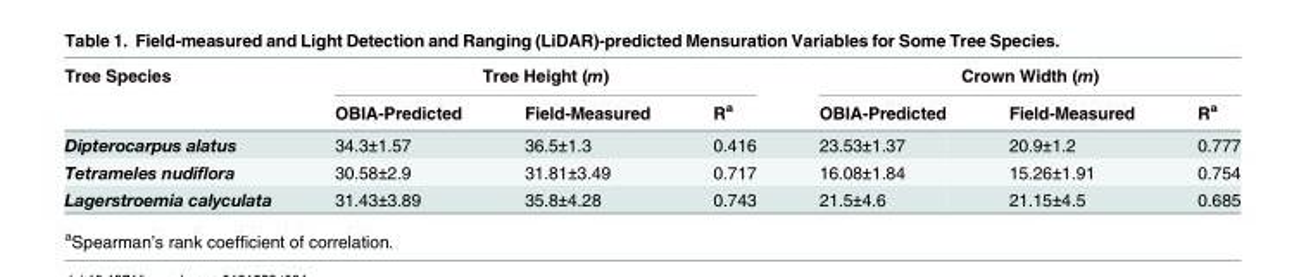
<table><thead><tr><td rowspan="2">Tree Species</td><td colspan="3">Tree Height (m)</td><td colspan="3">Crown Width (m)</td></tr><tr><td>OBIA-Predicted</td><td>Field-Measured</td><td>R<sup>a</sup></td><td>OBIA-Predicted</td><td>Field-Measured</td><td>R<sup>a</sup></td></tr></thead><tbody><tr><td>Dipterocarpus alatus</td><td>34.3±1.57</td><td>36.5±1.3</td><td>0.416</td><td>23.53±1.37</td><td>20.9±1.2</td><td>0.777</td></tr><tr><td>Tetrameles nudiflora</td><td>30.58±2.9</td><td>31.81±3.49</td><td>0.717</td><td>16.08±1.84</td><td>15.26±1.91</td><td>0.754</td></tr><tr><td>Lagerstroemia calyculata</td><td>31.43±3.89</td><td>35.8±4.28</td><td>0.743</td><td>21.5±4.6</td><td>21.15±4.5</td><td>0.685</td></tr></tbody></table>